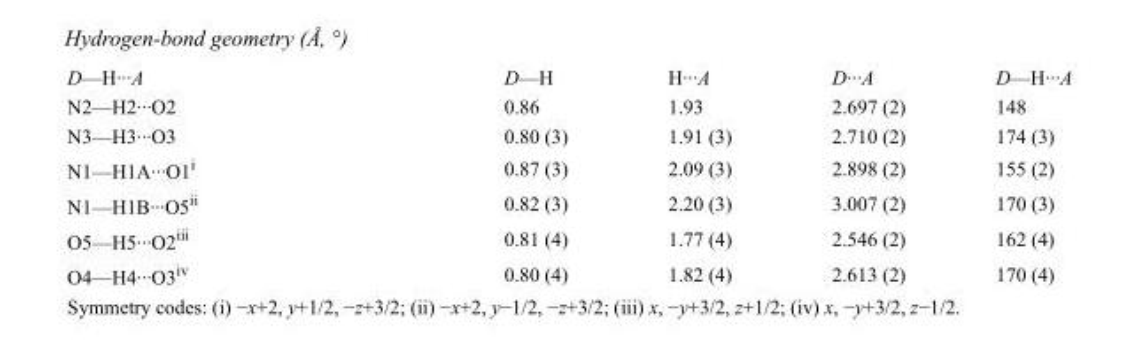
<table><tbody><tr><td>D—H···A</td><td>D—H</td><td>H···A</td><td>D···A</td><td>D—H···A</td></tr><tr><td>N2—H2···O2</td><td>0.86</td><td>1.93</td><td>2.697 (2)</td><td>148</td></tr><tr><td>N3—H3···O3</td><td>0.80 (3)</td><td>1.91 (3)</td><td>2.710 (2)</td><td>174 (3)</td></tr><tr><td>N1—H1A···O1<sup>i</sup></td><td>0.87 (3)</td><td>2.09 (3)</td><td>2.898 (2)</td><td>155 (2)</td></tr><tr><td>N1—H1B···O5<sup>ii</sup></td><td>0.82 (3)</td><td>2.20 (3)</td><td>3.007 (2)</td><td>170 (3)</td></tr><tr><td>O5—H5···O2<sup>iii</sup></td><td>0.81 (4)</td><td>1.77 (4)</td><td>2.546 (2)</td><td>162 (4)</td></tr><tr><td>O4—H4···O3<sup>iv</sup></td><td>0.80 (4)</td><td>1.82 (4)</td><td>2.613 (2)</td><td>170 (4)</td></tr></tbody></table>